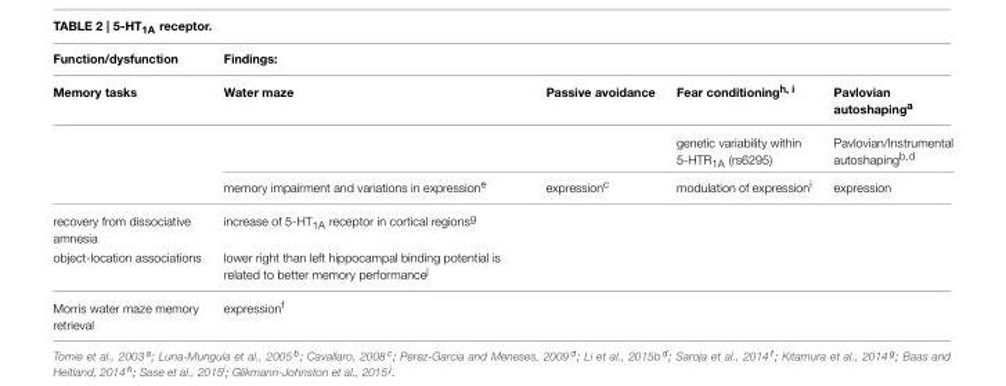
<table><thead><tr><td rowspan="2">Function/dysfunction Memory tasks</td><td rowspan="2">Findings: Water maze</td><td rowspan="2">Passive avoidance</td><td rowspan="2">Fear conditioning<sup>h, i</sup></td><td rowspan="2">Pavlovian autoshaping<sup>a</sup></td></tr><tr></tr></thead><tbody><tr><td></td><td></td><td></td><td>genetic variability within 5-HTR<sub>1A</sub> (rs6295)</td><td>Pavlovian/Instrumental autoshaping<sup>b,d</sup></td></tr><tr><td></td><td>memory impairment and variations in expression<sup>e</sup></td><td>expression<sup>c</sup></td><td>modulation of expression<sup>i</sup></td><td>expression</td></tr><tr><td>recovery from dissociative amnesia</td><td>increase of 5-HT<sub>1A</sub> receptor in cortical regions<sup>g</sup></td><td></td><td></td><td></td></tr><tr><td>object-location associations</td><td>lower right than left hippocampal binding potential is related to better memory performance<sup>j</sup></td><td></td><td></td><td></td></tr><tr><td>Morris water maze memory retrieval</td><td>expression<sup>f</sup></td><td></td><td></td><td></td></tr></tbody></table>